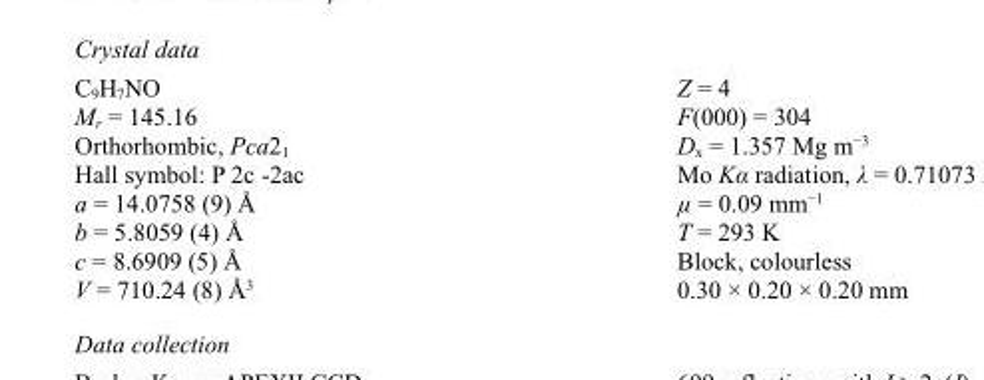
<table><tbody><tr><td>C<sub>9</sub>H<sub>7</sub>NO</td><td>Z = 4</td></tr><tr><td>M<sub>r</sub> = 145.16</td><td>F(000) = 304</td></tr><tr><td>Orthorhombic, Pca2<sub>1</sub></td><td>D<sub>x</sub> = 1.357 Mg m<sup>−3</sup></td></tr><tr><td>Hall symbol: P 2c -2ac</td><td>Mo Kα radiation, λ =</td></tr><tr><td>a = 14.0758 (9) Å</td><td>µ = 0.09 mm<sup>−1</sup></td></tr><tr><td>b = 5.8059 (4) Å</td><td>T = 293 K</td></tr><tr><td>c = 8.6909 (5) Å</td><td>Block, colourless</td></tr><tr><td>V = 710.24 (8) Å<sup>3</sup></td><td>0.30 × 0.20 × 0.20 mm</td></tr></tbody></table>